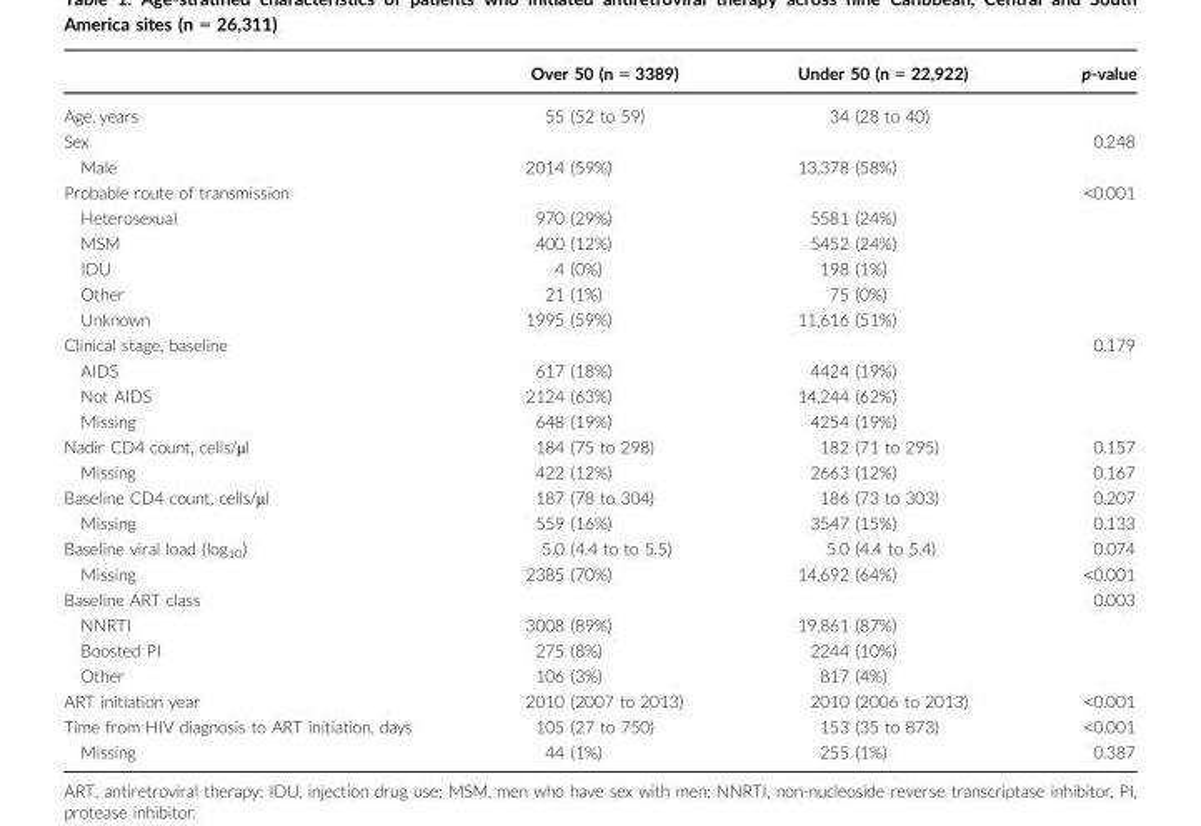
<table><thead><tr><td></td><td>Over 50 (n = 3389)</td><td>Under 50 (n = 22,922)</td><td>p-value</td></tr></thead><tbody><tr><td>Age, years</td><td>55 (52 to 59)</td><td>34 (28 to 40)</td><td></td></tr><tr><td>Sex</td><td></td><td></td><td>0.248</td></tr><tr><td>Male</td><td>2014 (59%)</td><td>13,378 (58%)</td><td></td></tr><tr><td>Probable route of transmission</td><td></td><td></td><td>&lt;0.001</td></tr><tr><td>Heterosexual</td><td>970 (29%)</td><td>5581 (24%)</td><td></td></tr><tr><td>MSM</td><td>400 (12%)</td><td>5452 (24%)</td><td></td></tr><tr><td>IDU</td><td>4 (0%)</td><td>198 (1%)</td><td></td></tr><tr><td>Other</td><td>21 (1%)</td><td>75 (0%)</td><td></td></tr><tr><td>Unknown</td><td>1995 (59%)</td><td>11,616 (51%)</td><td></td></tr><tr><td>Clinical stage, baseline</td><td></td><td></td><td>0.179</td></tr><tr><td>AIDS</td><td>617 (18%)</td><td>4424 (19%)</td><td></td></tr><tr><td>Not AIDS</td><td>2124 (63%)</td><td>14,244 (62%)</td><td></td></tr><tr><td>Missing</td><td>648 (19%)</td><td>4254 (19%)</td><td></td></tr><tr><td>Nadir CD4 count, cells/μl</td><td>184 (75 to 298)</td><td>182 (71 to 295)</td><td>0.157</td></tr><tr><td>Missing</td><td>422 (12%)</td><td>2663 (12%)</td><td>0.167</td></tr><tr><td>Baseline CD4 count, cells/μl</td><td>187 (78 to 304)</td><td>186 (73 to 303)</td><td>0.207</td></tr><tr><td>Missing</td><td>559 (16%)</td><td>3547 (15%)</td><td>0.133</td></tr><tr><td>Baseline viral load (log<sub>10</sub>)</td><td>5.0 (4.4 to to 5.5)</td><td>5.0 (4.4 to 5.4)</td><td>0.074</td></tr><tr><td>Missing</td><td>2385 (70%)</td><td>14,692 (64%)</td><td>&lt;0.001</td></tr><tr><td>Baseline ART class</td><td></td><td></td><td>0.003</td></tr><tr><td>NNRTI</td><td>3008 (89%)</td><td>19,861 (87%)</td><td></td></tr><tr><td>Boosted PI</td><td>275 (8%)</td><td>2244 (10%)</td><td></td></tr><tr><td>Other</td><td>106 (3%)</td><td>817 (4%)</td><td></td></tr><tr><td>ART initiation year</td><td>2010 (2007 to 2013)</td><td>2010 (2006 to 2013)</td><td>&lt;0.001</td></tr><tr><td>Time from HIV diagnosis to ART initiation, days</td><td>105 (27 to 750)</td><td>153 (35 to 873)</td><td>&lt;0.001</td></tr><tr><td>Missing</td><td>44 (1%)</td><td>255 (1%)</td><td>0.387</td></tr></tbody></table>